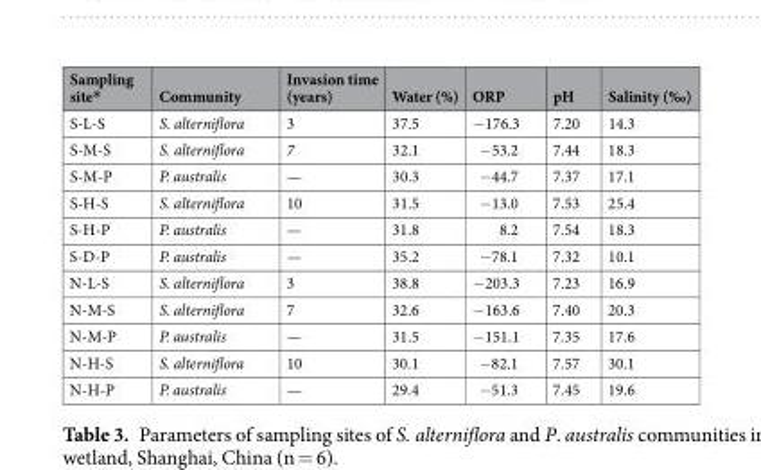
<table><thead><tr><td>Sampling site*</td><td>Community</td><td>Invasion time (years)</td><td>Water (%)</td><td>ORP</td><td>pH</td><td>Salinity (‰)</td></tr></thead><tbody><tr><td>S-L-S</td><td>S. alterniflora</td><td>3</td><td>37.5</td><td>−176.3</td><td>7.20</td><td>14.3</td></tr><tr><td>S-M-S</td><td>S. alterniflora</td><td>7</td><td>32.1</td><td>−53.2</td><td>7.44</td><td>18.3</td></tr><tr><td>S-M-P</td><td>P. australis</td><td>—</td><td>30.3</td><td>−44.7</td><td>7.37</td><td>17.1</td></tr><tr><td>S-H-S</td><td>S. alterniflora</td><td>10</td><td>31.5</td><td>−13.0</td><td>7.53</td><td>25.4</td></tr><tr><td>S-H-P</td><td>P. australis</td><td>—</td><td>31.8</td><td>8.2</td><td>7.54</td><td>18.3</td></tr><tr><td>S-D-P</td><td>P. australis</td><td>—</td><td>35.2</td><td>−78.1</td><td>7.32</td><td>10.1</td></tr><tr><td>N-L-S</td><td>S. alterniflora</td><td>3</td><td>38.8</td><td>−203.3</td><td>7.23</td><td>16.9</td></tr><tr><td>N-M-S</td><td>S. alterniflora</td><td>7</td><td>32.6</td><td>−163.6</td><td>7.40</td><td>20.3</td></tr><tr><td>N-M-P</td><td>P. australis</td><td>—</td><td>31.5</td><td>−151.1</td><td>7.35</td><td>17.6</td></tr><tr><td>N-H-S</td><td>S. alterniflora</td><td>10</td><td>30.1</td><td>−82.1</td><td>7.57</td><td>30.1</td></tr><tr><td>N-H-P</td><td>P. australis</td><td>—</td><td>29.4</td><td>−51.3</td><td>7.45</td><td>19.6</td></tr></tbody></table>